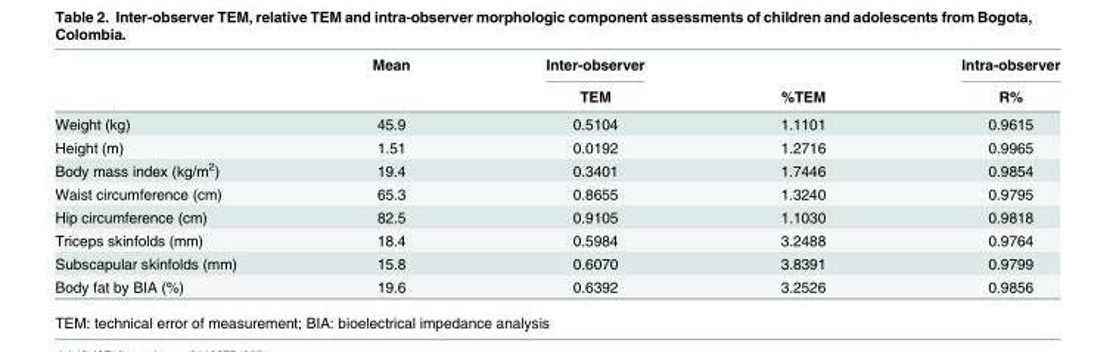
<table><thead><tr><td rowspan="2"></td><td rowspan="2">Mean</td><td rowspan="2">Inter-observer TEM</td><td rowspan="2">%TEM</td><td rowspan="2">Intra-observer R%</td></tr><tr></tr></thead><tbody><tr><td>Weight (kg)</td><td>45.9</td><td>0.5104</td><td>1.1101</td><td>0.9615</td></tr><tr><td>Height (m)</td><td>1.51</td><td>0.0192</td><td>1.2716</td><td>0.9965</td></tr><tr><td>Body mass index (kg/m<sup>2</sup>)</td><td>19.4</td><td>0.3401</td><td>1.7446</td><td>0.9854</td></tr><tr><td>Waist circumference (cm)</td><td>65.3</td><td>0.8655</td><td>1.3240</td><td>0.9795</td></tr><tr><td>Hip circumference (cm)</td><td>82.5</td><td>0.9105</td><td>1.1030</td><td>0.9818</td></tr><tr><td>Triceps skinfolds (mm)</td><td>18.4</td><td>0.5984</td><td>3.2488</td><td>0.9764</td></tr><tr><td>Subscapular skinfolds (mm)</td><td>15.8</td><td>0.6070</td><td>3.8391</td><td>0.9799</td></tr><tr><td>Body fat by BIA (%)</td><td>19.6</td><td>0.6392</td><td>3.2526</td><td>0.9856</td></tr></tbody></table>